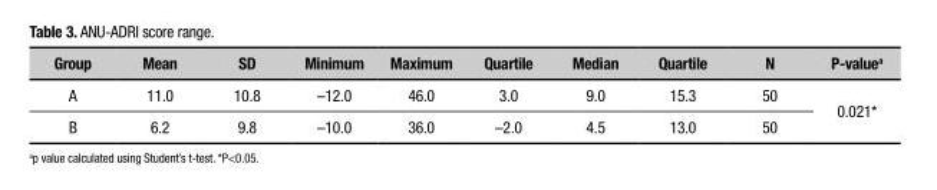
<table><thead><tr><td>Group</td><td>Mean</td><td>SD</td><td>Minimum</td><td>Maximum</td><td>Quartile</td><td>Median</td><td>Quartile</td><td>N</td><td>P-value<sup>a</sup></td></tr></thead><tbody><tr><td>A</td><td>11.0</td><td>10.8</td><td>–12.0</td><td>46.0</td><td>3.0</td><td>9.0</td><td>15.3</td><td>50</td><td rowspan="2">0.021*</td></tr><tr><td>B</td><td>6.2</td><td>9.8</td><td>–10.0</td><td>36.0</td><td>–2.0</td><td>4.5</td><td>13.0</td><td>50</td></tr></tbody></table>